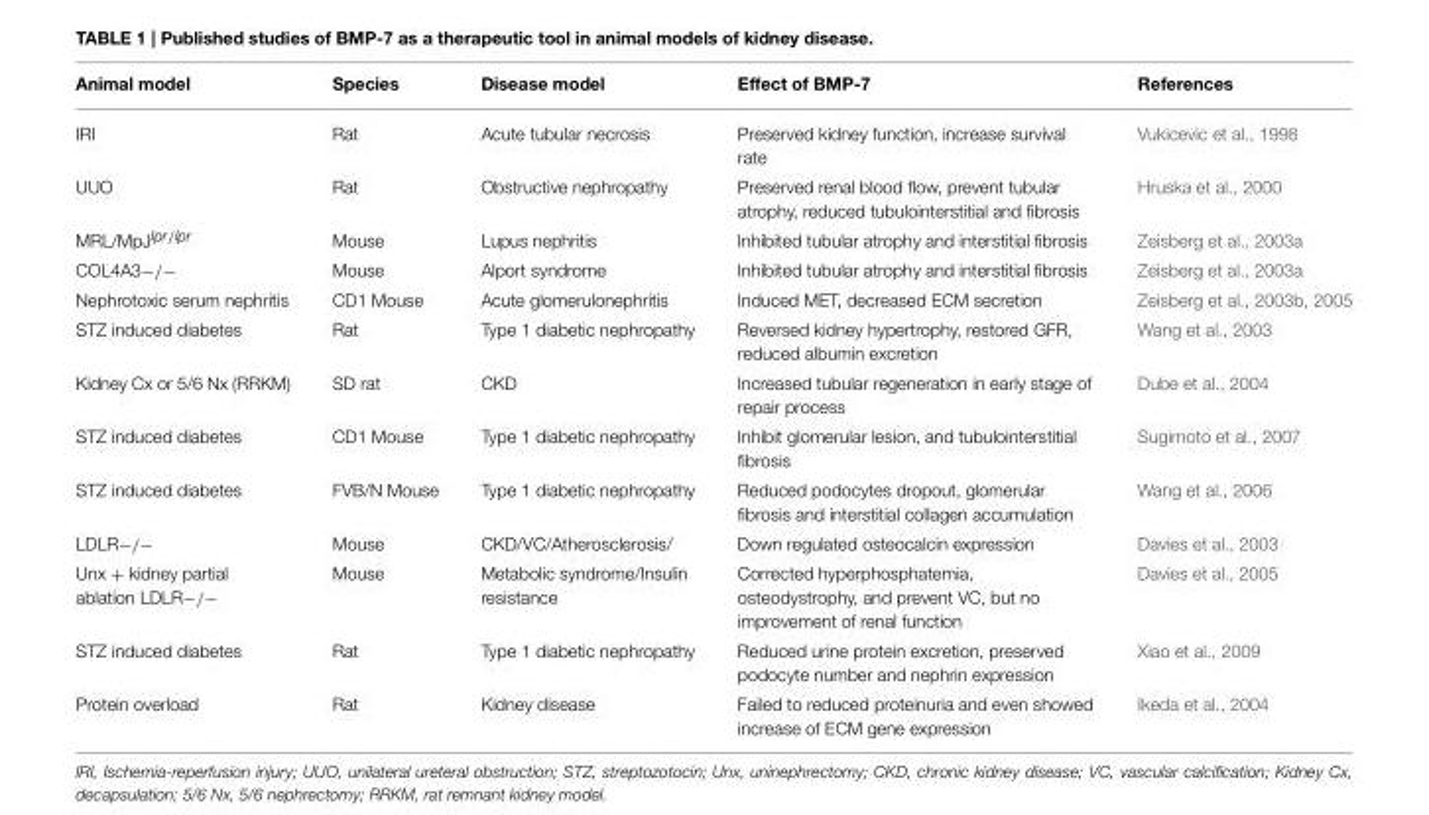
<table><thead><tr><td>Animal model</td><td>Species</td><td>Disease model</td><td>Effect of BMP-7</td><td>References</td></tr></thead><tbody><tr><td>IRI</td><td>Rat</td><td>Acute tubular necrosis</td><td>Preserved kidney function, increase survival rate</td><td>Vukicevic et al., 1998</td></tr><tr><td>UUO</td><td>Rat</td><td>Obstructive nephropathy</td><td>Preserved renal blood flow, prevent tubular atrophy, reduced tubulointerstitial and fibrosis</td><td>Hruska et al., 2000</td></tr><tr><td>MRL/MpJ<sup>lpr/lpr</sup></td><td>Mouse</td><td>Lupus nephritis</td><td>Inhibited tubular atrophy and interstitial fibrosis</td><td>Zeisberg et al., 2003a</td></tr><tr><td>COL4A3−/−</td><td>Mouse</td><td>Alport syndrome</td><td>Inhibited tubular atrophy and interstitial fibrosis</td><td>Zeisberg et al., 2003a</td></tr><tr><td>Nephrotoxic serum nephritis</td><td>CD1 Mouse</td><td>Acute glomerulonephritis</td><td>Induced MET, decreased ECM secretion</td><td>Zeisberg et al., 2003b, 2005</td></tr><tr><td>STZ induced diabetes</td><td>Rat</td><td>Type 1 diabetic nephropathy</td><td>Reversed kidney hypertrophy, restored GFR, reduced albumin excretion</td><td>Wang et al., 2003</td></tr><tr><td>Kidney Cx or 5/6 Nx (RRKM)</td><td>SD rat</td><td>CKD</td><td>Increased tubular regeneration in early stage of repair process</td><td>Dube et al., 2004</td></tr><tr><td>STZ induced diabetes</td><td>CD1 Mouse</td><td>Type 1 diabetic nephropathy</td><td>Inhibit glomerular lesion, and tubulointerstitial fibrosis</td><td>Sugimoto et al., 2007</td></tr><tr><td>STZ induced diabetes</td><td>FVB/N Mouse</td><td>Type 1 diabetic nephropathy</td><td>Reduced podocytes dropout, glomerular fibrosis and interstitial collagen accumulation</td><td>Wang et al., 2006</td></tr><tr><td>LDLR−/−</td><td>Mouse</td><td>CKD/VC/Atherosclerosis/</td><td>Down regulated osteocalcin expression</td><td>Davies et al., 2003</td></tr><tr><td>Unx + kidney partial ablation LDLR−/−</td><td>Mouse</td><td>Metabolic syndrome/Insulin resistance</td><td>Corrected hyperphosphatemia, osteodystrophy, and prevent VC, but no improvement of renal function</td><td>Davies et al., 2005</td></tr><tr><td>STZ induced diabetes</td><td>Rat</td><td>Type 1 diabetic nephropathy</td><td>Reduced urine protein excretion, preserved podocyte number and nephrin expression</td><td>Xiao et al., 2009</td></tr><tr><td>Protein overload</td><td>Rat</td><td>Kidney disease</td><td>Failed to reduced proteinuria and even showed increase of ECM gene expression</td><td>Ikeda et al., 2004</td></tr></tbody></table>